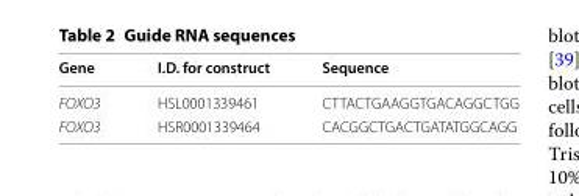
<table><thead><tr><td>Gene</td><td>I.D. for construct</td><td>Sequence</td></tr></thead><tbody><tr><td>FOXO3</td><td>HSL0001339461</td><td>CTTACTGAAGGTGACAGGCTGG</td></tr><tr><td>FOXO3</td><td>HSR0001339464</td><td>CACGGCTGACTGATATGGCAGG</td></tr></tbody></table>